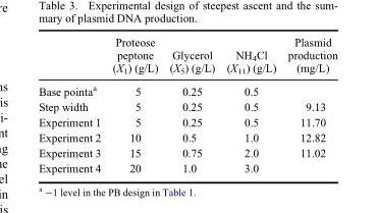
<table><thead><tr><td></td><td>Proteose peptone (X<sub>1</sub>) (g/L)</td><td>Glycerol (X<sub>5</sub>) (g/L)</td><td>NH<sub>4</sub>Cl (X<sub>11</sub>) (g/L)</td><td>Plasmid production (mg/L)</td></tr></thead><tbody><tr><td>Base pointa<sup>a</sup></td><td>5</td><td>0.25</td><td>0.5</td><td></td></tr><tr><td>Step width</td><td>5</td><td>0.25</td><td>0.5</td><td>9.13</td></tr><tr><td>Experiment 1</td><td>5</td><td>0.25</td><td>0.5</td><td>11.70</td></tr><tr><td>Experiment 2</td><td>10</td><td>0.5</td><td>1.0</td><td>12.82</td></tr><tr><td>Experiment 3</td><td>15</td><td>0.75</td><td>2.0</td><td>11.02</td></tr><tr><td>Experiment 4</td><td>20</td><td>1.0</td><td>3.0</td><td></td></tr></tbody></table>